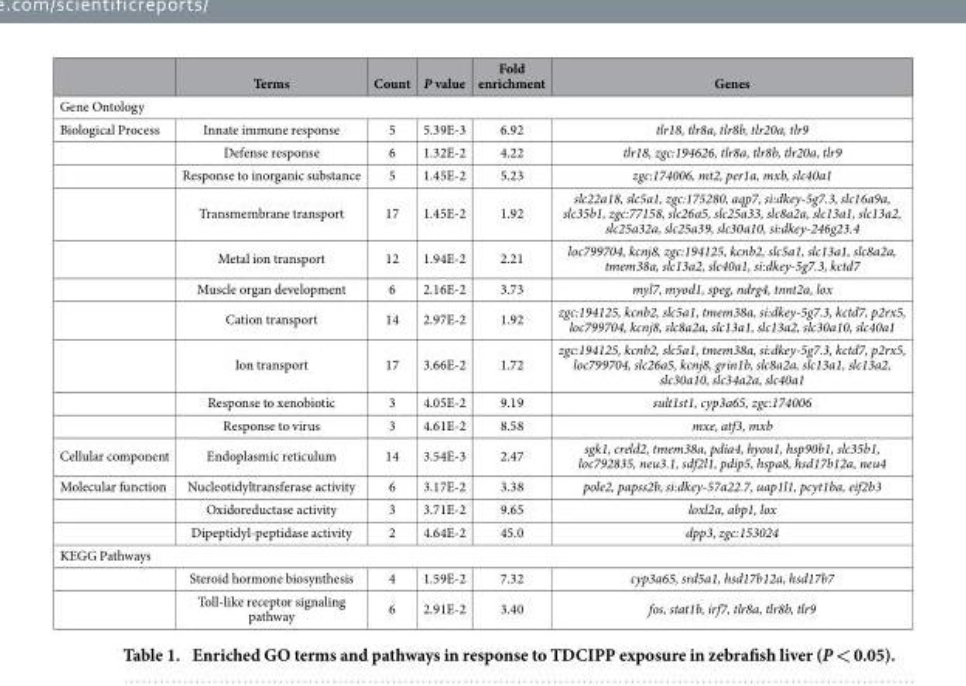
<table><thead><tr><td></td><td>Terms</td><td>Count</td><td>P value</td><td>Fold enrichment</td><td>Genes</td></tr></thead><tbody><tr><td colspan="6">Gene Ontology</td></tr><tr><td rowspan="10">Biological Process</td><td>Innate immune response</td><td>5</td><td>5.39E-3</td><td>6.92</td><td>tlr18, tlr8a, tlr8b, tlr20a, tlr9</td></tr><tr><td>Defense response</td><td>6</td><td>1.32E-2</td><td>4.22</td><td>tlr18, zgc:194626, tlr8a, tlr8b, tlr20a, tlr9</td></tr><tr><td>Response to inorganic substance</td><td>5</td><td>1.45E-2</td><td>5.23</td><td>zgc:174006, mt2, per1a, mxb, slc40a1</td></tr><tr><td>Transmembrane transport</td><td>17</td><td>1.45E-2</td><td>1.92</td><td>slc22a18, slc5a1, zgc:175280, aqp7, si:dkey-5g7.3, slc16a9a, slc35b1, zgc:77158, slc26a5, slc25a33, slc8a2a, slc13a1, slc13a2, slc25a32a, slc25a39, slc30a10, si:dkey-246g23.4</td></tr><tr><td>Metal ion transport</td><td>12</td><td>1.94E-2</td><td>2.21</td><td>loc799704, kcnj8, zgc:194125, kcnb2, slc5a1, slc13a1, slc8a2a, tmem38a, slc13a2, slc40a1, si:dkey-5g7.3, kctd7</td></tr><tr><td>Muscle organ development</td><td>6</td><td>2.16E-2</td><td>3.73</td><td>myl7, myod1, speg, ndrg4, tnnt2a, lox</td></tr><tr><td>Cation transport</td><td>14</td><td>2.97E-2</td><td>1.92</td><td>zgc:194125, kcnb2, slc5a1, tmem38a, si:dkey-5g7.3, kctd7, p2rx5, loc799704, kcnj8, slc8a2a, slc13a1, slc13a2, slc30a10, slc40a1</td></tr><tr><td>Ion transport</td><td>17</td><td>3.66E-2</td><td>1.72</td><td>zgc:194125, kcnb2, slc5a1, tmem38a, si:dkey-5g7.3, kctd7, p2rx5, loc799704, slc26a5, kcnj8, grin1b, slc8a2a, slc13a1, slc13a2, slc30a10, slc34a2a, slc40a1</td></tr><tr><td>Response to xenobiotic</td><td>3</td><td>4.05E-2</td><td>9.19</td><td>sult1st1, cyp3a65, zgc:174006</td></tr><tr><td>Response to virus</td><td>3</td><td>4.61E-2</td><td>8.58</td><td>mxe, atf3, mxb</td></tr><tr><td>Cellular component</td><td>Endoplasmic reticulum</td><td>14</td><td>3.54E-3</td><td>2.47</td><td>sgk1, creld2, tmem38a, pdia4, hyou1, hsp90b1, slc35b1, loc792835, neu3.1, sdf2l1, pdip5, hspa8, hsd17b12a, neu4</td></tr><tr><td rowspan="3">Molecular function</td><td>Nucleotidyltransferase activity</td><td>6</td><td>3.17E-2</td><td>3.38</td><td>pole2, papss2b, si:dkey-57a22.7, uap1l1, pcyt1ba, eif2b3</td></tr><tr><td>Oxidoreductase activity</td><td>3</td><td>3.71E-2</td><td>9.65</td><td>loxl2a, abp1, lox</td></tr><tr><td>Dipeptidyl-peptidase activity</td><td>2</td><td>4.64E-2</td><td>45.0</td><td>dpp3, zgc:153024</td></tr><tr><td colspan="6">KEGG Pathways</td></tr><tr><td></td><td>Steroid hormone biosynthesis</td><td>4</td><td>1.59E-2</td><td>7.32</td><td>cyp3a65, srd5a1, hsd17b12a, hsd17b7</td></tr><tr><td></td><td>Toll-like receptor signaling pathway</td><td>6</td><td>2.91E-2</td><td>3.40</td><td>fos, stat1b, irf7, tlr8a, tlr8b, tlr9</td></tr></tbody></table>